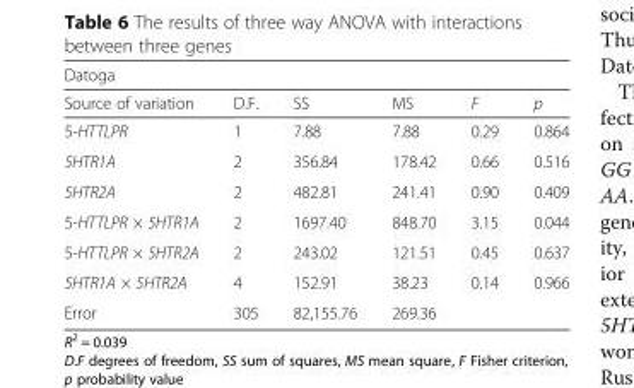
<table><thead><tr><td colspan="6">Datoga</td></tr><tr><td>Source of variation</td><td>D.F.</td><td>SS</td><td>MS</td><td>F</td><td>p</td></tr></thead><tbody><tr><td>5-HTTLPR</td><td>1</td><td>7.88</td><td>7.88</td><td>0.29</td><td>0.864</td></tr><tr><td>5HTR1A</td><td>2</td><td>356.84</td><td>178.42</td><td>0.66</td><td>0.516</td></tr><tr><td>5HTR2A</td><td>2</td><td>482.81</td><td>241.41</td><td>0.90</td><td>0.409</td></tr><tr><td>5-HTTLPR × 5HTR1A</td><td>2</td><td>1697.40</td><td>848.70</td><td>3.15</td><td>0.044</td></tr><tr><td>5-HTTLPR × 5HTR2A</td><td>2</td><td>243.02</td><td>121.51</td><td>0.45</td><td>0.637</td></tr><tr><td>5HTR1A × 5HTR2A</td><td>4</td><td>152.91</td><td>38.23</td><td>0.14</td><td>0.966</td></tr><tr><td>Error</td><td>305</td><td>82,155.76</td><td>269.36</td><td></td><td></td></tr></tbody></table>